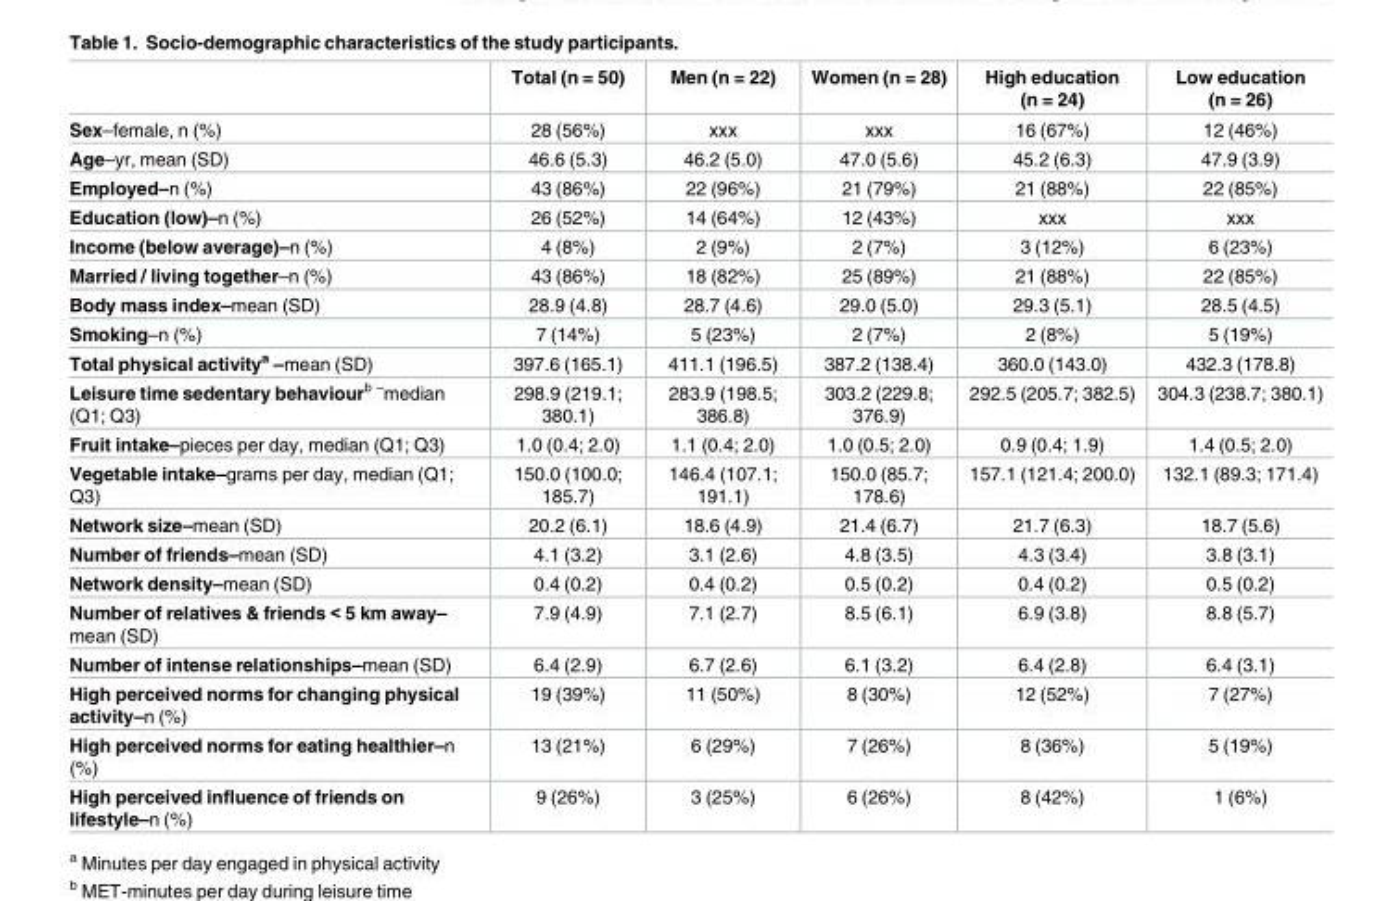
<table><thead><tr><td></td><td>Total (n = 50)</td><td>Men (n = 22)</td><td>Women (n = 28)</td><td>High education (n = 24)</td><td>Low education (n = 26)</td></tr></thead><tbody><tr><td>Sex–female, n (%)</td><td>28 (56%)</td><td>xxx</td><td>xxx</td><td>16 (67%)</td><td>12 (46%)</td></tr><tr><td>Age–yr, mean (SD)</td><td>46.6 (5.3)</td><td>46.2 (5.0)</td><td>47.0 (5.6)</td><td>45.2 (6.3)</td><td>47.9 (3.9)</td></tr><tr><td>Employed–n (%)</td><td>43 (86%)</td><td>22 (96%)</td><td>21 (79%)</td><td>21 (88%)</td><td>22 (85%)</td></tr><tr><td>Education (low)–n (%)</td><td>26 (52%)</td><td>14 (64%)</td><td>12 (43%)</td><td>xxx</td><td>xxx</td></tr><tr><td>Income (below average)–n (%)</td><td>4 (8%)</td><td>2 (9%)</td><td>2 (7%)</td><td>3 (12%)</td><td>6 (23%)</td></tr><tr><td>Married / living together–n (%)</td><td>43 (86%)</td><td>18 (82%)</td><td>25 (89%)</td><td>21 (88%)</td><td>22 (85%)</td></tr><tr><td>Body mass index–mean (SD)</td><td>28.9 (4.8)</td><td>28.7 (4.6)</td><td>29.0 (5.0)</td><td>29.3 (5.1)</td><td>28.5 (4.5)</td></tr><tr><td>Smoking–n (%)</td><td>7 (14%)</td><td>5 (23%)</td><td>2 (7%)</td><td>2 (8%)</td><td>5 (19%)</td></tr><tr><td>Total physical activity<sup>a</sup> –mean (SD)</td><td>397.6 (165.1)</td><td>411.1 (196.5)</td><td>387.2 (138.4)</td><td>360.0 (143.0)</td><td>432.3 (178.8)</td></tr><tr><td>Leisure time sedentary behaviour<sup>b –</sup>median (Q1; Q3)</td><td>298.9 (219.1; 380.1)</td><td>283.9 (198.5; 386.8)</td><td>303.2 (229.8; 376.9)</td><td>292.5 (205.7; 382.5)</td><td>304.3 (238.7; 380.1)</td></tr><tr><td>Fruit intake–pieces per day, median (Q1; Q3)</td><td>1.0 (0.4; 2.0)</td><td>1.1 (0.4; 2.0)</td><td>1.0 (0.5; 2.0)</td><td>0.9 (0.4; 1.9)</td><td>1.4 (0.5; 2.0)</td></tr><tr><td>Vegetable intake–grams per day, median (Q1; Q3)</td><td>150.0 (100.0; 185.7)</td><td>146.4 (107.1; 191.1)</td><td>150.0 (85.7; 178.6)</td><td>157.1 (121.4; 200.0)</td><td>132.1 (89.3; 171.4)</td></tr><tr><td>Network size–mean (SD)</td><td>20.2 (6.1)</td><td>18.6 (4.9)</td><td>21.4 (6.7)</td><td>21.7 (6.3)</td><td>18.7 (5.6)</td></tr><tr><td>Number of friends–mean (SD)</td><td>4.1 (3.2)</td><td>3.1 (2.6)</td><td>4.8 (3.5)</td><td>4.3 (3.4)</td><td>3.8 (3.1)</td></tr><tr><td>Network density–mean (SD)</td><td>0.4 (0.2)</td><td>0.4 (0.2)</td><td>0.5 (0.2)</td><td>0.4 (0.2)</td><td>0.5 (0.2)</td></tr><tr><td>Number of relatives &amp; friends &lt; 5 km away– mean (SD)</td><td>7.9 (4.9)</td><td>7.1 (2.7)</td><td>8.5 (6.1)</td><td>6.9 (3.8)</td><td>8.8 (5.7)</td></tr><tr><td>Number of intense relationships–mean (SD)</td><td>6.4 (2.9)</td><td>6.7 (2.6)</td><td>6.1 (3.2)</td><td>6.4 (2.8)</td><td>6.4 (3.1)</td></tr><tr><td>High perceived norms for changing physical activity–n (%)</td><td>19 (39%)</td><td>11 (50%)</td><td>8 (30%)</td><td>12 (52%)</td><td>7 (27%)</td></tr><tr><td>High perceived norms for eating healthier–n (%)</td><td>13 (21%)</td><td>6 (29%)</td><td>7 (26%)</td><td>8 (36%)</td><td>5 (19%)</td></tr><tr><td>High perceived influence of friends on lifestyle–n (%)</td><td>9 (26%)</td><td>3 (25%)</td><td>6 (26%)</td><td>8 (42%)</td><td>1 (6%)</td></tr></tbody></table>